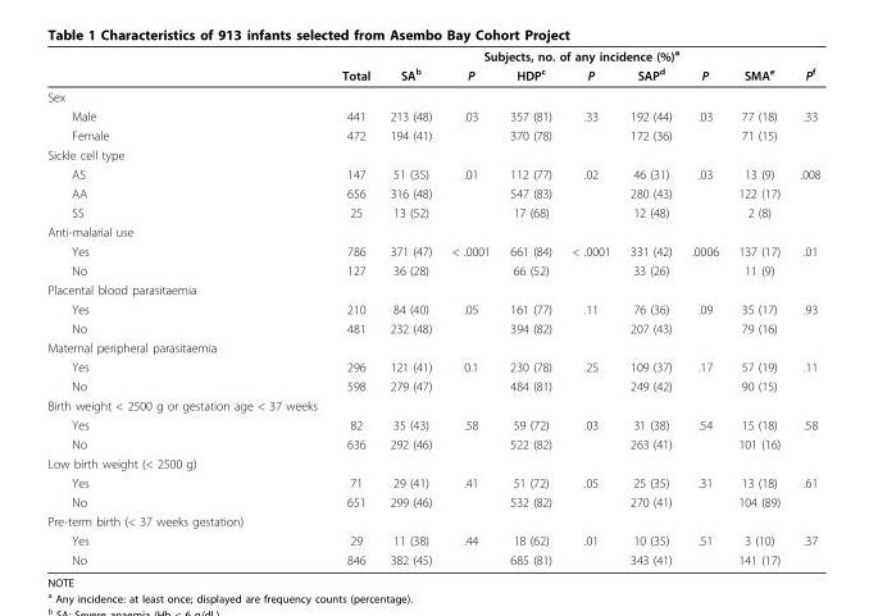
<table><thead><tr><td rowspan="2"></td><td colspan="9">Subjects, no. of any incidence (%)<sup>a</sup></td></tr><tr><td>Total</td><td>SA<sup>b</sup></td><td>P</td><td>HDP<sup>c</sup></td><td>P</td><td>SAP<sup>d</sup></td><td>P</td><td>SMA<sup>e</sup></td><td>P<sup>f</sup></td></tr></thead><tbody><tr><td colspan="10">Sex</td></tr><tr><td>Male</td><td>441</td><td>213 (48)</td><td>.03</td><td>357 (81)</td><td>.33</td><td>192 (44)</td><td>.03</td><td>77 (18)</td><td>.33</td></tr><tr><td>Female</td><td>472</td><td>194 (41)</td><td></td><td>370 (78)</td><td></td><td>172 (36)</td><td></td><td>71 (15)</td><td></td></tr><tr><td colspan="10">Sickle cell type</td></tr><tr><td>AS</td><td>147</td><td>51 (35)</td><td>.01</td><td>112 (77)</td><td>.02</td><td>46 (31)</td><td>.03</td><td>13 (9)</td><td>.008</td></tr><tr><td>AA</td><td>656</td><td>316 (48)</td><td></td><td>547 (83)</td><td></td><td>280 (43)</td><td></td><td>122 (17)</td><td></td></tr><tr><td>SS</td><td>25</td><td>13 (52)</td><td></td><td>17 (68)</td><td></td><td>12 (48)</td><td></td><td>2 (8)</td><td></td></tr><tr><td colspan="10">Anti-malarial use</td></tr><tr><td>Yes</td><td>786</td><td>371 (47)</td><td>&lt; .0001</td><td>661 (84)</td><td>&lt; .0001</td><td>331 (42)</td><td>.0006</td><td>137 (17)</td><td>.01</td></tr><tr><td>No</td><td>127</td><td>36 (28)</td><td></td><td>66 (52)</td><td></td><td>33 (26)</td><td></td><td>11 (9)</td><td></td></tr><tr><td colspan="10">Placental blood parasitaemia</td></tr><tr><td>Yes</td><td>210</td><td>84 (40)</td><td>.05</td><td>161 (77)</td><td>.11</td><td>76 (36)</td><td>.09</td><td>35 (17)</td><td>.93</td></tr><tr><td>No</td><td>481</td><td>232 (48)</td><td></td><td>394 (82)</td><td></td><td>207 (43)</td><td></td><td>79 (16)</td><td></td></tr><tr><td colspan="10">Maternal peripheral parasitaemia</td></tr><tr><td>Yes</td><td>296</td><td>121 (41)</td><td>0.1</td><td>230 (78)</td><td>.25</td><td>109 (37)</td><td>.17</td><td>57 (19)</td><td>.11</td></tr><tr><td>No</td><td>598</td><td>279 (47)</td><td></td><td>484 (81)</td><td></td><td>249 (42)</td><td></td><td>90 (15)</td><td></td></tr><tr><td colspan="10">Birth weight &lt; 2500 g or gestation age &lt; 37 weeks</td></tr><tr><td>Yes</td><td>82</td><td>35 (43)</td><td>.58</td><td>59 (72)</td><td>.03</td><td>31 (38)</td><td>.54</td><td>15 (18)</td><td>.58</td></tr><tr><td>No</td><td>636</td><td>292 (46)</td><td></td><td>522 (82)</td><td></td><td>263 (41)</td><td></td><td>101 (16)</td><td></td></tr><tr><td colspan="10">Low birth weight (&lt; 2500 g)</td></tr><tr><td>Yes</td><td>71</td><td>29 (41)</td><td>.41</td><td>51 (72)</td><td>.05</td><td>25 (35)</td><td>.31</td><td>13 (18)</td><td>.61</td></tr><tr><td>No</td><td>651</td><td>299 (46)</td><td></td><td>532 (82)</td><td></td><td>270 (41)</td><td></td><td>104 (89)</td><td></td></tr><tr><td colspan="10">Pre-term birth (&lt; 37 weeks gestation)</td></tr><tr><td>Yes</td><td>29</td><td>11 (38)</td><td>.44</td><td>18 (62)</td><td>.01</td><td>10 (35)</td><td>.51</td><td>3 (10)</td><td>.37</td></tr><tr><td>No</td><td>846</td><td>382 (45)</td><td></td><td>685 (81)</td><td></td><td>343 (41)</td><td></td><td>141 (17)</td><td></td></tr></tbody></table>